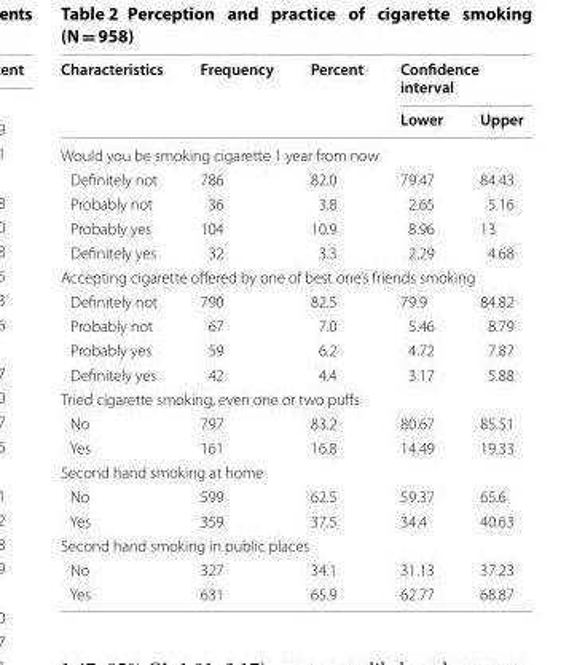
<table><thead><tr><td rowspan="2">Characteristics</td><td rowspan="2">Frequency</td><td rowspan="2">Percent</td><td colspan="2">Confidence interval</td></tr><tr><td>Lower</td><td>Upper</td></tr></thead><tbody><tr><td colspan="5">Would you be smoking cigarette 1 year from now</td></tr><tr><td>Definitely not</td><td>786</td><td>82.0</td><td>79.47</td><td>84.43</td></tr><tr><td>Probably not</td><td>36</td><td>3.8</td><td>2.65</td><td>5.16</td></tr><tr><td>Probably yes</td><td>104</td><td>10.9</td><td>8.96</td><td>13</td></tr><tr><td>Definitely yes</td><td>32</td><td>3.3</td><td>2.29</td><td>4.68</td></tr><tr><td colspan="5">Accepting cigarette offered by one of best one’s friends smoking</td></tr><tr><td>Definitely not</td><td>790</td><td>82.5</td><td>79.9</td><td>84.82</td></tr><tr><td>Probably not</td><td>67</td><td>7.0</td><td>5.46</td><td>8.79</td></tr><tr><td>Probably yes</td><td>59</td><td>6.2</td><td>4.72</td><td>7.87</td></tr><tr><td>Definitely yes</td><td>42</td><td>4.4</td><td>3.17</td><td>5.88</td></tr><tr><td colspan="5">Tried cigarette smoking, even one or two puffs</td></tr><tr><td>No</td><td>797</td><td>83.2</td><td>80.67</td><td>85.51</td></tr><tr><td>Yes</td><td>161</td><td>16.8</td><td>14.49</td><td>19.33</td></tr><tr><td colspan="5">Second hand smoking at home</td></tr><tr><td>No</td><td>599</td><td>62.5</td><td>59.37</td><td>65.6</td></tr><tr><td>Yes</td><td>359</td><td>37.5</td><td>34.4</td><td>40.63</td></tr><tr><td colspan="5">Second hand smoking in public places</td></tr><tr><td>No</td><td>327</td><td>34.1</td><td>31.13</td><td>37.23</td></tr><tr><td>Yes</td><td>631</td><td>65.9</td><td>62.77</td><td>68.87</td></tr></tbody></table>